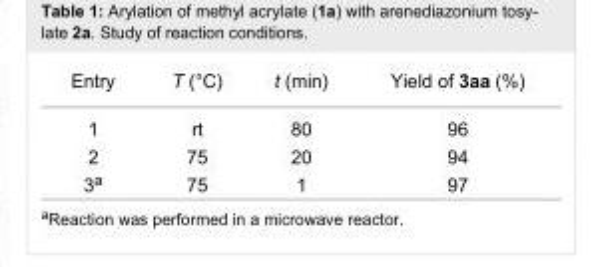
<table><tbody><tr><td>Entry</td><td>T (°C)</td><td>t (min)</td><td>Yield of 3aa (%)</td></tr><tr><td>1</td><td>rt</td><td>80</td><td>96</td></tr><tr><td>2</td><td>75</td><td>20</td><td>94</td></tr><tr><td>3<sup>a</sup></td><td>75</td><td>1</td><td>97</td></tr></tbody></table>